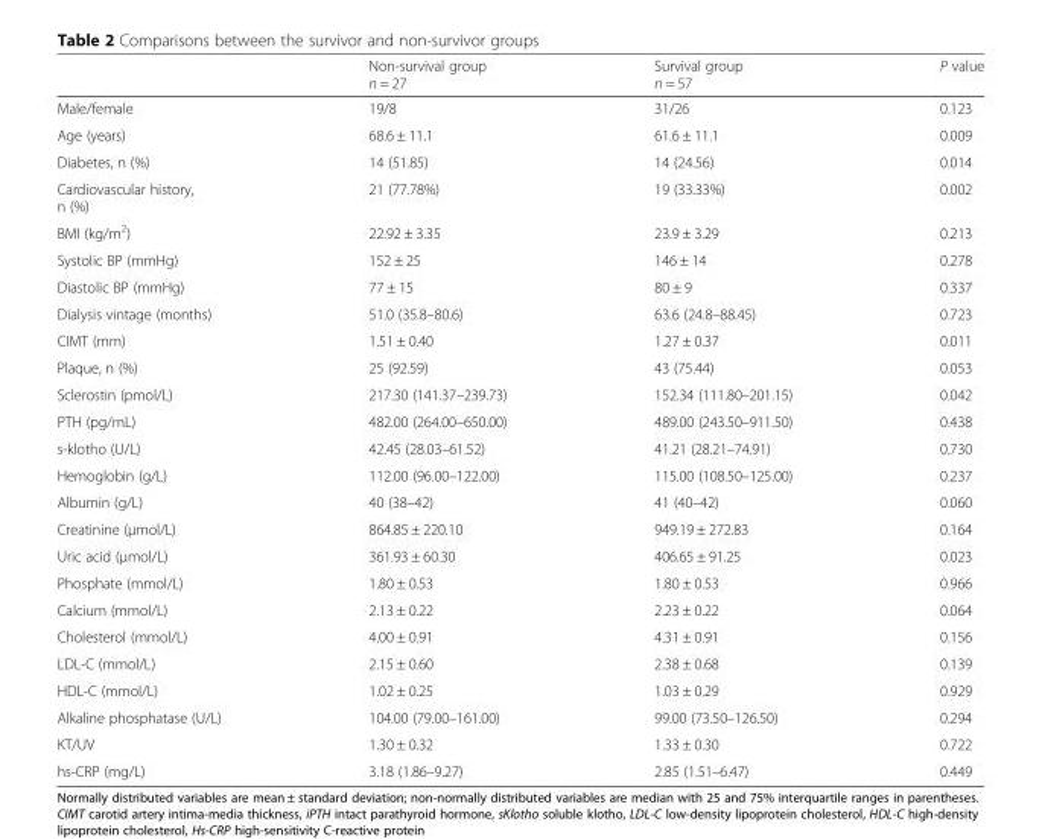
<table><thead><tr><td></td><td>Non-survival group n = 27</td><td>Survival group n = 57</td><td>P value</td></tr></thead><tbody><tr><td>Male/female</td><td>19/8</td><td>31/26</td><td>0.123</td></tr><tr><td>Age (years)</td><td>68.6 ± 11.1</td><td>61.6 ± 11.1</td><td>0.009</td></tr><tr><td>Diabetes, n (%)</td><td>14 (51.85)</td><td>14 (24.56)</td><td>0.014</td></tr><tr><td>Cardiovascular history, n (%)</td><td>21 (77.78%)</td><td>19 (33.33%)</td><td>0.002</td></tr><tr><td>BMI (kg/m<sup>2</sup>)</td><td>22.92 ± 3.35</td><td>23.9 ± 3.29</td><td>0.213</td></tr><tr><td>Systolic BP (mmHg)</td><td>152 ± 25</td><td>146 ± 14</td><td>0.278</td></tr><tr><td>Diastolic BP (mmHg)</td><td>77 ± 15</td><td>80 ± 9</td><td>0.337</td></tr><tr><td>Dialysis vintage (months)</td><td>51.0 (35.8–80.6)</td><td>63.6 (24.8–88.45)</td><td>0.723</td></tr><tr><td>CIMT (mm)</td><td>1.51 ± 0.40</td><td>1.27 ± 0.37</td><td>0.011</td></tr><tr><td>Plaque, n (%)</td><td>25 (92.59)</td><td>43 (75.44)</td><td>0.053</td></tr><tr><td>Sclerostin (pmol/L)</td><td>217.30 (141.37–239.73)</td><td>152.34 (111.80–201.15)</td><td>0.042</td></tr><tr><td>PTH (pg/mL)</td><td>482.00 (264.00–650.00)</td><td>489.00 (243.50–911.50)</td><td>0.438</td></tr><tr><td>s-klotho (U/L)</td><td>42.45 (28.03–61.52)</td><td>41.21 (28.21–74.91)</td><td>0.730</td></tr><tr><td>Hemoglobin (g/L)</td><td>112.00 (96.00–122.00)</td><td>115.00 (108.50–125.00)</td><td>0.237</td></tr><tr><td>Albumin (g/L)</td><td>40 (38–42)</td><td>41 (40–42)</td><td>0.060</td></tr><tr><td>Creatinine (μmol/L)</td><td>864.85 ± 220.10</td><td>949.19 ± 272.83</td><td>0.164</td></tr><tr><td>Uric acid (μmol/L)</td><td>361.93 ± 60.30</td><td>406.65 ± 91.25</td><td>0.023</td></tr><tr><td>Phosphate (mmol/L)</td><td>1.80 ± 0.53</td><td>1.80 ± 0.53</td><td>0.966</td></tr><tr><td>Calcium (mmol/L)</td><td>2.13 ± 0.22</td><td>2.23 ± 0.22</td><td>0.064</td></tr><tr><td>Cholesterol (mmol/L)</td><td>4.00 ± 0.91</td><td>4.31 ± 0.91</td><td>0.156</td></tr><tr><td>LDL-C (mmol/L)</td><td>2.15 ± 0.60</td><td>2.38 ± 0.68</td><td>0.139</td></tr><tr><td>HDL-C (mmol/L)</td><td>1.02 ± 0.25</td><td>1.03 ± 0.29</td><td>0.929</td></tr><tr><td>Alkaline phosphatase (U/L)</td><td>104.00 (79.00–161.00)</td><td>99.00 (73.50–126.50)</td><td>0.294</td></tr><tr><td>KT/UV</td><td>1.30 ± 0.32</td><td>1.33 ± 0.30</td><td>0.722</td></tr><tr><td>hs-CRP (mg/L)</td><td>3.18 (1.86–9.27)</td><td>2.85 (1.51–6.47)</td><td>0.449</td></tr></tbody></table>